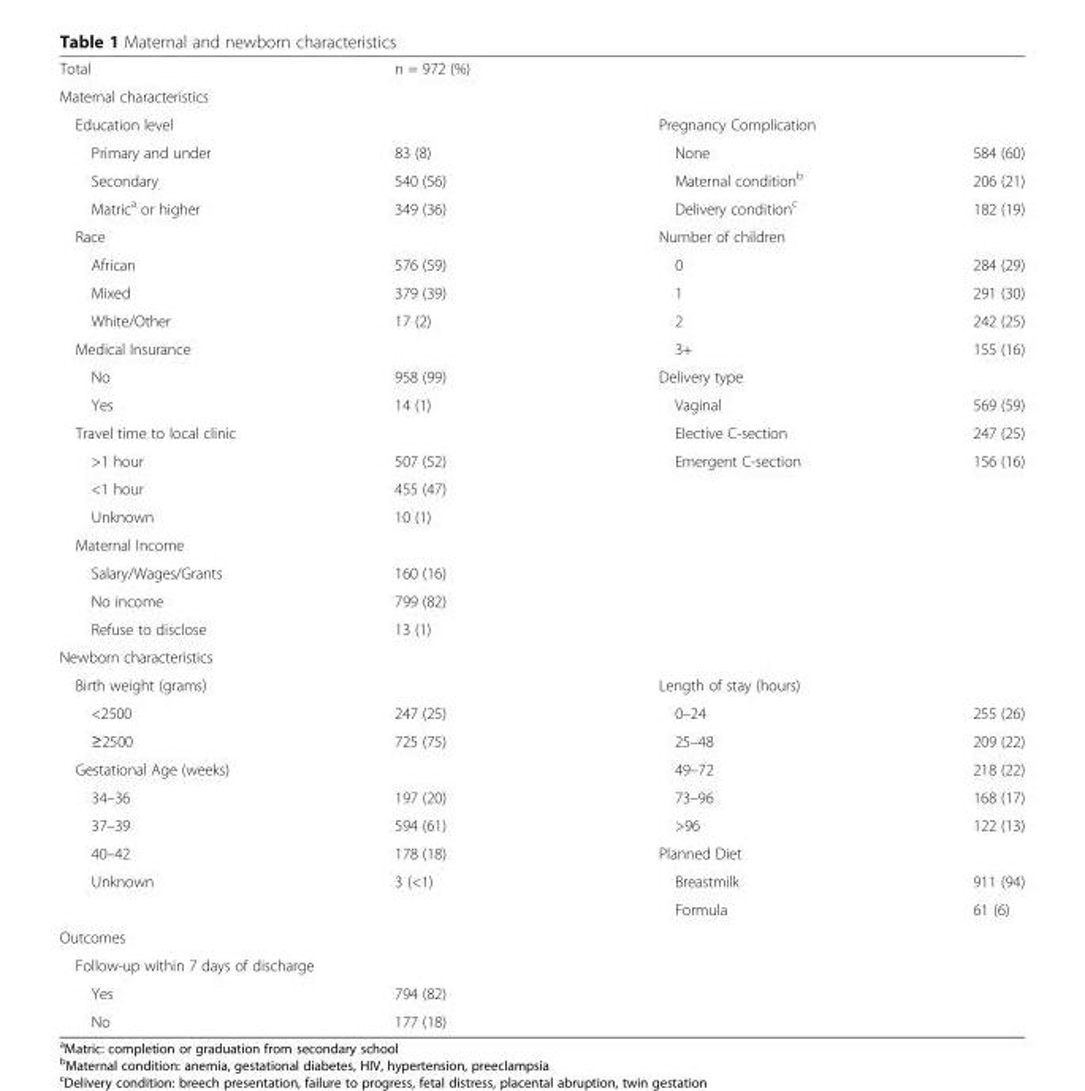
<table><tbody><tr><td>Total</td><td>n = 972 (%)</td><td colspan="2"></td></tr><tr><td colspan="4">Maternal characteristics</td></tr><tr><td colspan="2">Education level</td><td colspan="2">Pregnancy Complication</td></tr><tr><td>Primary and under</td><td>83 (8)</td><td>None</td><td>584 (60)</td></tr><tr><td>Secondary</td><td>540 (56)</td><td>Maternal condition<sup>b</sup></td><td>206 (21)</td></tr><tr><td>Matric<sup>a</sup> or higher</td><td>349 (36)</td><td>Delivery condition<sup>c</sup></td><td>182 (19)</td></tr><tr><td colspan="2">Race</td><td colspan="2">Number of children</td></tr><tr><td>African</td><td>576 (59)</td><td>0</td><td>284 (29)</td></tr><tr><td>Mixed</td><td>379 (39)</td><td>1</td><td>291 (30)</td></tr><tr><td>White/Other</td><td>17 (2)</td><td>2</td><td>242 (25)</td></tr><tr><td colspan="2">Medical Insurance</td><td>3+</td><td>155 (16)</td></tr><tr><td>No</td><td>958 (99)</td><td colspan="2">Delivery type</td></tr><tr><td>Yes</td><td>14 (1)</td><td>Vaginal</td><td>569 (59)</td></tr><tr><td colspan="2">Travel time to local clinic</td><td>Elective C-section</td><td>247 (25)</td></tr><tr><td>&gt;1 hour</td><td>507 (52)</td><td>Emergent C-section</td><td>156 (16)</td></tr><tr><td>&lt;1 hour</td><td>455 (47)</td><td></td><td></td></tr><tr><td>Unknown</td><td>10 (1)</td><td rowspan="5" colspan="2"></td></tr><tr><td colspan="2">Maternal Income</td></tr><tr><td>Salary/Wages/Grants</td><td>160 (16)</td></tr><tr><td>No income</td><td>799 (82)</td></tr><tr><td>Refuse to disclose</td><td>13 (1)</td></tr><tr><td colspan="4">Newborn characteristics</td></tr><tr><td colspan="2">Birth weight (grams)</td><td colspan="2">Length of stay (hours)</td></tr><tr><td>&lt;2500</td><td>247 (25)</td><td>0–24</td><td>255 (26)</td></tr><tr><td>≥2500</td><td>725 (75)</td><td>25–48</td><td>209 (22)</td></tr><tr><td colspan="2">Gestational Age (weeks)</td><td>49–72</td><td>218 (22)</td></tr><tr><td>34–36</td><td>197 (20)</td><td>73–96</td><td>168 (17)</td></tr><tr><td>37–39</td><td>594 (61)</td><td>&gt;96</td><td>122 (13)</td></tr><tr><td>40–42</td><td>178 (18)</td><td colspan="2">Planned Diet</td></tr><tr><td rowspan="2">Unknown</td><td>3 (&lt;1)</td><td>Breastmilk</td><td>911 (94)</td></tr><tr><td></td><td>Formula</td><td>61 (6)</td></tr><tr><td colspan="4">Outcomes</td></tr><tr><td colspan="2">Follow-up within 7 days of discharge</td><td rowspan="3" colspan="2"></td></tr><tr><td>Yes</td><td>794 (82)</td></tr><tr><td>No</td><td>177 (18)</td></tr></tbody></table>